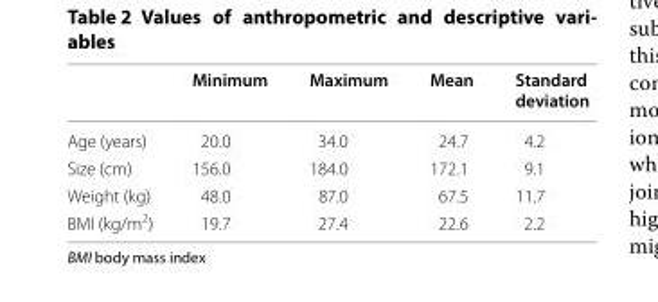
<table><thead><tr><td></td><td>Minimum</td><td>Maximum</td><td>Mean</td><td>Standard deviation</td></tr></thead><tbody><tr><td>Age (years)</td><td>20.0</td><td>34.0</td><td>24.7</td><td>4.2</td></tr><tr><td>Size (cm)</td><td>156.0</td><td>184.0</td><td>172.1</td><td>9.1</td></tr><tr><td>Weight (kg)</td><td>48.0</td><td>87.0</td><td>67.5</td><td>11.7</td></tr><tr><td>BMI (kg/m<sup>2</sup>)</td><td>19.7</td><td>27.4</td><td>22.6</td><td>2.2</td></tr></tbody></table>